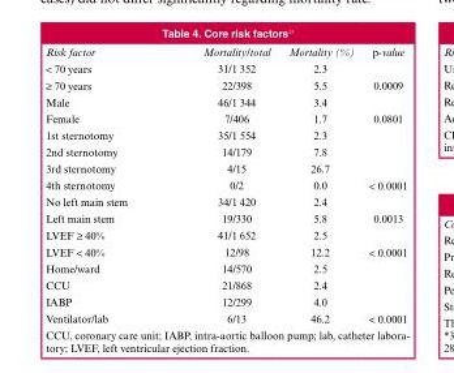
<table><thead><tr><td>Risk factor</td><td>Mortality/total</td><td>Mortality (%)</td><td>p-value</td></tr></thead><tbody><tr><td>&lt; 70 years</td><td>31/1 352</td><td>2.3</td><td></td></tr><tr><td>≥ 70 years</td><td>22/398</td><td>5.5</td><td>0.0009</td></tr><tr><td>Male</td><td>46/1 344</td><td>3.4</td><td></td></tr><tr><td>Female</td><td>7/406</td><td>1.7</td><td>0.0801</td></tr><tr><td>1st sternotomy</td><td>35/1 554</td><td>2.3</td><td></td></tr><tr><td>2nd sternotomy</td><td>14/179</td><td>7.8</td><td></td></tr><tr><td>3rd sternotomy</td><td>4/15</td><td>26.7</td><td></td></tr><tr><td>4th sternotomy</td><td>0/2</td><td>0.0</td><td>&lt; 0.0001</td></tr><tr><td>No left main stem</td><td>34/1 420</td><td>2.4</td><td></td></tr><tr><td>Left main stem</td><td>19/330</td><td>5.8</td><td>0.0013</td></tr><tr><td>LVEF ≥ 40%</td><td>41/1 652</td><td>2.5</td><td></td></tr><tr><td>LVEF &lt; 40%</td><td>12/98</td><td>12.2</td><td>&lt; 0.0001</td></tr><tr><td>Home/ward</td><td>14/570</td><td>2.5</td><td></td></tr><tr><td>CCU</td><td>21/868</td><td>2.4</td><td></td></tr><tr><td>IABP</td><td>12/299</td><td>4.0</td><td></td></tr><tr><td>Ventilator/lab</td><td>6/13</td><td>46.2</td><td>&lt; 0.0001</td></tr></tbody></table>